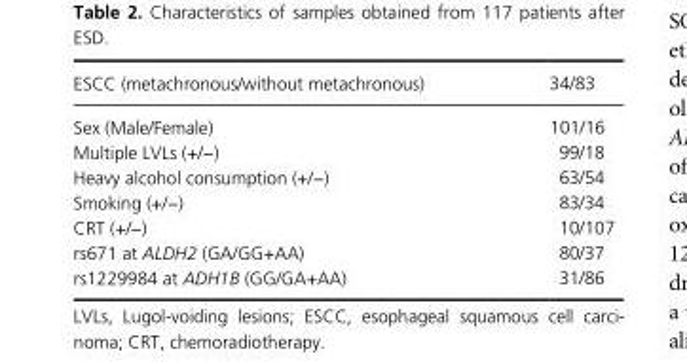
<table><thead><tr><td>ESCC (metachronous/without metachronous)</td><td>34/83</td></tr></thead><tbody><tr><td>Sex (Male/Female)</td><td>101/16</td></tr><tr><td>Multiple LVLs (+/−)</td><td>99/18</td></tr><tr><td>Heavy alcohol consumption (+/−)</td><td>63/54</td></tr><tr><td>Smoking (+/−)</td><td>83/34</td></tr><tr><td>CRT (+/−)</td><td>10/107</td></tr><tr><td>rs671 at ALDH2 (GA/GG+AA)</td><td>80/37</td></tr><tr><td>rs1229984 at ADH1B (GG/GA+AA)</td><td>31/86</td></tr></tbody></table>